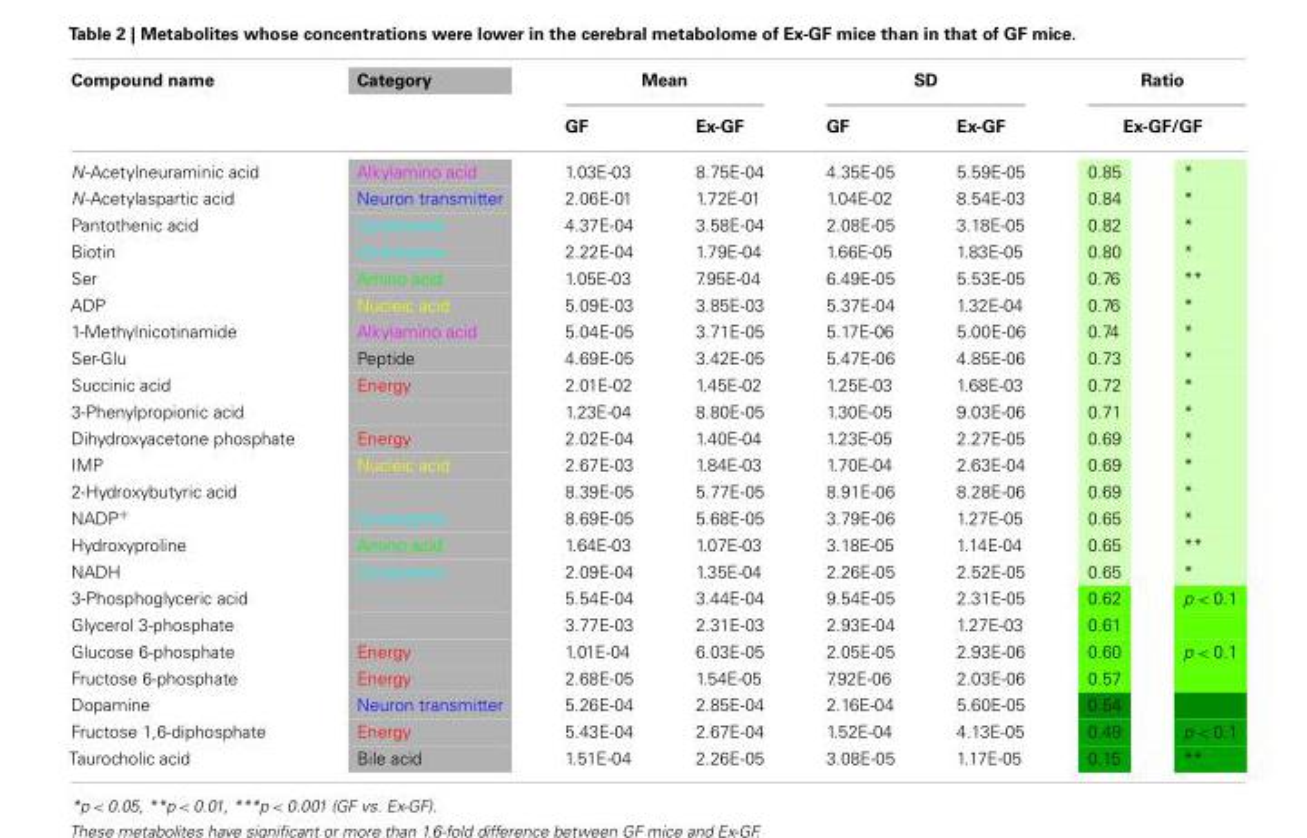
<table><thead><tr><td rowspan="3">Compound name N-Acetylneuraminic acid</td><td rowspan="3">Category Alkylamino acid</td><td colspan="2">Mean</td><td colspan="2">SD</td><td rowspan="2" colspan="2">Ratio Ex-GF/GF</td></tr><tr><td rowspan="2">GF 1.03E-03</td><td rowspan="2">Ex-GF 8.75E-04</td><td rowspan="2">GF 4.35E-05</td><td rowspan="2">Ex-GF 5.59E-05</td></tr><tr><td>0.85</td><td>*</td></tr></thead><tbody><tr><td>N-Acetylaspartic acid</td><td>Neuron transmitter</td><td>2.06E-01</td><td>1.72E-01</td><td>1.04E-02</td><td>8.54E-03</td><td>0.84</td><td>*</td></tr><tr><td>Pantothenic acid</td><td>Co-enzyme</td><td>4.37E-04</td><td>3.58E-04</td><td>2.08E-05</td><td>3.18E-05</td><td>0.82</td><td>*</td></tr><tr><td>Biotin</td><td>Co-enzyme</td><td>2.22E-04</td><td>1.79E-04</td><td>1.66E-05</td><td>1.83E-05</td><td>0.80</td><td>*</td></tr><tr><td>Ser</td><td>Amino acid</td><td>1.05E-03</td><td>7.95E-04</td><td>6.49E-05</td><td>5.53E-05</td><td>0.76</td><td>**</td></tr><tr><td>ADP</td><td>Nucleic acid</td><td>5.09E-03</td><td>3.85E-03</td><td>5.37E-04</td><td>1.32E-04</td><td>0.76</td><td>*</td></tr><tr><td>1-Methylnicotinamide</td><td>Alkylamino acid</td><td>5.04E-05</td><td>3.71E-05</td><td>5.17E-06</td><td>5.00E-06</td><td>0.74</td><td>*</td></tr><tr><td>Ser-Glu</td><td>Peptide</td><td>4.69E-05</td><td>3.42E-05</td><td>5.47E-06</td><td>4.85E-06</td><td>0.73</td><td>*</td></tr><tr><td>Succinic acid</td><td>Energy</td><td>2.01E-02</td><td>1.45E-02</td><td>1.25E-03</td><td>1.68E-03</td><td>0.72</td><td>*</td></tr><tr><td>3-Phenylpropionic acid</td><td></td><td>1.23E-04</td><td>8.80E-05</td><td>1.30E-05</td><td>9.03E-06</td><td>0.71</td><td>*</td></tr><tr><td>Dihydroxyacetone phosphate</td><td>Energy</td><td>2.02E-04</td><td>1.40E-04</td><td>1.23E-05</td><td>2.27E-05</td><td>0.69</td><td>*</td></tr><tr><td>IMP</td><td>Nucleic acid</td><td>2.67E-03</td><td>1.84E-03</td><td>1.70E-04</td><td>2.63E-04</td><td>0.69</td><td>*</td></tr><tr><td>2-Hydroxybutyric acid</td><td></td><td>8.39E-05</td><td>5.77E-05</td><td>8.91E-06</td><td>8.28E-06</td><td>0.69</td><td>*</td></tr><tr><td>NADP<sup>+</sup></td><td>Co-enzyme</td><td>8.69E-05</td><td>5.68E-05</td><td>3.79E-06</td><td>1.27E-05</td><td>0.65</td><td>*</td></tr><tr><td>Hydroxyproline</td><td>Amino acid</td><td>1.64E-03</td><td>1.07E-03</td><td>3.18E-05</td><td>1.14E-04</td><td>0.65</td><td>**</td></tr><tr><td>NADH</td><td>Co-enzyme</td><td>2.09E-04</td><td>1.35E-04</td><td>2.26E-05</td><td>2.52E-05</td><td>0.65</td><td>*</td></tr><tr><td>3-Phosphoglyceric acid</td><td></td><td>5.54E-04</td><td>3.44E-04</td><td>9.54E-05</td><td>2.31E-05</td><td>0.62</td><td>p &lt; 0.1</td></tr><tr><td>Glycerol 3-phosphate</td><td></td><td>3.77E-03</td><td>2.31E-03</td><td>2.93E-04</td><td>1.27E-03</td><td>0.61</td><td></td></tr><tr><td>Glucose 6-phosphate</td><td>Energy</td><td>1.01E-04</td><td>6.03E-05</td><td>2.05E-05</td><td>2.93E-06</td><td>0.60</td><td>p &lt; 0.1</td></tr><tr><td>Fructose 6-phosphate</td><td>Energy</td><td>2.68E-05</td><td>1.54E-05</td><td>7.92E-06</td><td>2.03E-06</td><td>0.57</td><td></td></tr><tr><td>Dopamine</td><td>Neuron transmitter</td><td>5.26E-04</td><td>2.85E-04</td><td>2.16E-04</td><td>5.60E-05</td><td>0.54</td><td></td></tr><tr><td>Fructose 1,6-diphosphate</td><td>Energy</td><td>5.43E-04</td><td>2.67E-04</td><td>1.52E-04</td><td>4.13E-05</td><td>0.49</td><td>p &lt; 0.1</td></tr><tr><td>Taurocholic acid</td><td>Bile acid</td><td>1.51E-04</td><td>2.26E-05</td><td>3.08E-05</td><td>1.17E-05</td><td>0.15</td><td>**</td></tr></tbody></table>